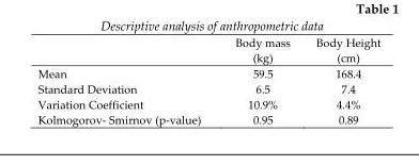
<table><thead><tr><td></td><td>Body mass (kg)</td><td>Body Height (cm)</td></tr></thead><tbody><tr><td>Mean</td><td>59.5</td><td>168.4</td></tr><tr><td>Standard Deviation</td><td>6.5</td><td>7.4</td></tr><tr><td>Variation Coefficient</td><td>10.9%</td><td>4.4%</td></tr><tr><td>Kolmogorov- Smirnov (p-value)</td><td>0.95</td><td>0.89</td></tr></tbody></table>